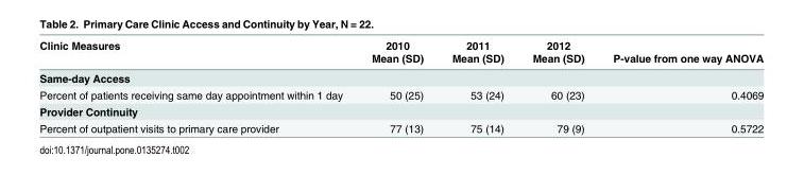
<table><thead><tr><td rowspan="2">Clinic Measures</td><td rowspan="2">2010 Mean (SD)</td><td rowspan="2">2011 Mean (SD)</td><td rowspan="2">2012 Mean (SD)</td><td rowspan="2">P-value from one way ANOVA</td></tr><tr></tr></thead><tbody><tr><td colspan="5">Same-day Access</td></tr><tr><td>Percent of patients receiving same day appointment within 1 day</td><td>50 (25)</td><td>53 (24)</td><td>60 (23)</td><td>0.4069</td></tr><tr><td colspan="5">Provider Continuity</td></tr><tr><td>Percent of outpatient visits to primary care provider</td><td>77 (13)</td><td>75 (14)</td><td>79 (9)</td><td>0.5722</td></tr></tbody></table>